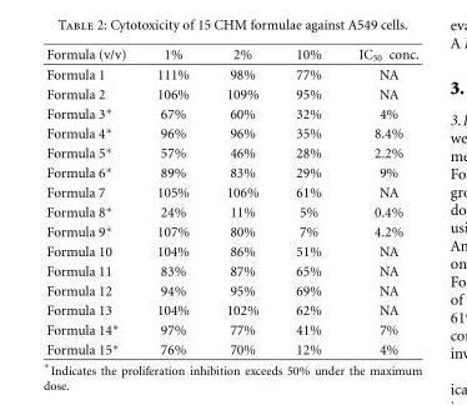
<table><thead><tr><td>Formula (v/v)</td><td>1%</td><td>2%</td><td>10%</td><td>IC<sub>50</sub> conc.</td></tr></thead><tbody><tr><td>Formula 1</td><td>111%</td><td>98%</td><td>77%</td><td>NA</td></tr><tr><td>Formula 2</td><td>106%</td><td>109%</td><td>95%</td><td>NA</td></tr><tr><td>Formula 3∗</td><td>67%</td><td>60%</td><td>32%</td><td>4%</td></tr><tr><td>Formula 4∗</td><td>96%</td><td>96%</td><td>35%</td><td>8.4%</td></tr><tr><td>Formula 5∗</td><td>57%</td><td>46%</td><td>28%</td><td>2.2%</td></tr><tr><td>Formula 6∗</td><td>89%</td><td>83%</td><td>29%</td><td>9%</td></tr><tr><td>Formula 7</td><td>105%</td><td>106%</td><td>61%</td><td>NA</td></tr><tr><td>Formula 8∗</td><td>24%</td><td>11%</td><td>5%</td><td>0.4%</td></tr><tr><td>Formula 9∗</td><td>107%</td><td>80%</td><td>7%</td><td>4.2%</td></tr><tr><td>Formula 10</td><td>104%</td><td>86%</td><td>51%</td><td>NA</td></tr><tr><td>Formula 11</td><td>83%</td><td>87%</td><td>65%</td><td>NA</td></tr><tr><td>Formula 12</td><td>94%</td><td>95%</td><td>69%</td><td>NA</td></tr><tr><td>Formula 13</td><td>104%</td><td>102%</td><td>62%</td><td>NA</td></tr><tr><td>Formula 14∗</td><td>97%</td><td>77%</td><td>41%</td><td>7%</td></tr><tr><td>Formula 15∗</td><td>76%</td><td>70%</td><td>12%</td><td>4%</td></tr></tbody></table>